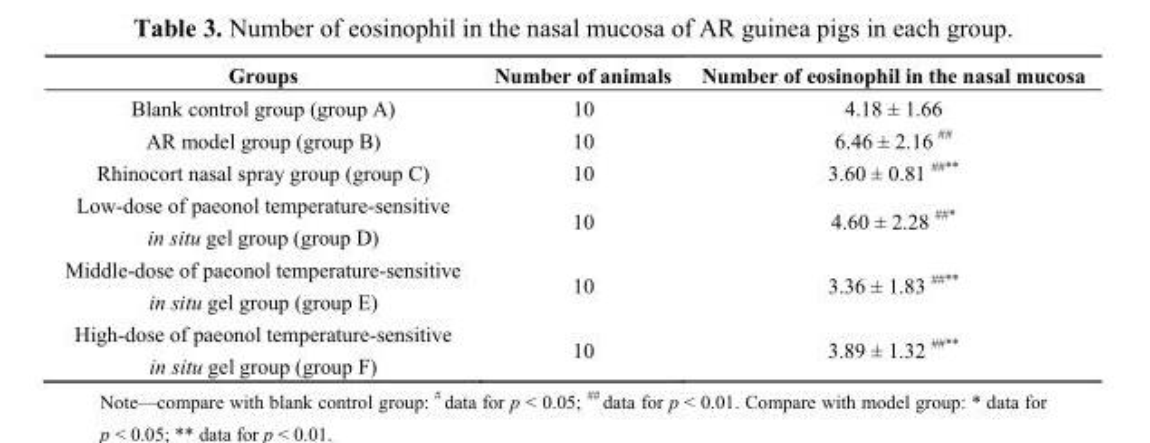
<table><thead><tr><td>Groups</td><td>Number of animals</td><td>Number of eosinophil in the nasal mucosa</td></tr></thead><tbody><tr><td>Blank control group (group A)</td><td>10</td><td>4.18 ± 1.66</td></tr><tr><td>AR model group (group B)</td><td>10</td><td>6.46 ± 2.16 ##</td></tr><tr><td>Rhinocort nasal spray group (group C)</td><td>10</td><td>3.60 ± 0.81 ##**</td></tr><tr><td>Low-dose of paeonol temperature-sensitive in situ gel group (group D)</td><td>10</td><td>4.60 ± 2.28 ##*</td></tr><tr><td>Middle-dose of paeonol temperature-sensitive in situ gel group (group E)</td><td>10</td><td>3.36 ± 1.83 ##**</td></tr><tr><td>High-dose of paeonol temperature-sensitive in situ gel group (group F)</td><td>10</td><td>3.89 ± 1.32 ##**</td></tr></tbody></table>